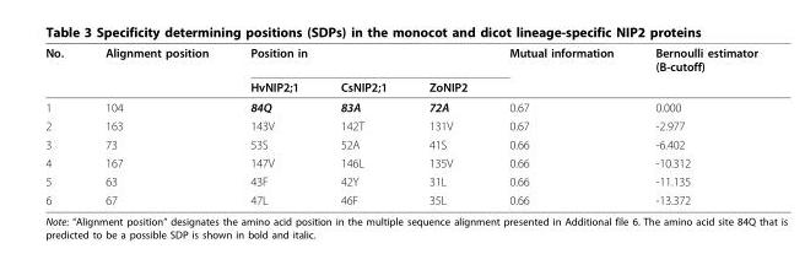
<table><thead><tr><td rowspan="2">No.</td><td rowspan="2">Alignment position</td><td colspan="3">Position in</td><td rowspan="2">Mutual information</td><td rowspan="2">Bernoulli estimator (B-cutoff)</td></tr><tr><td>HvNIP2;1</td><td>CsNIP2;1</td><td>ZoNIP2</td></tr></thead><tbody><tr><td>1</td><td>104</td><td>84Q</td><td>83A</td><td>72A</td><td>0.67</td><td>0.000</td></tr><tr><td>2</td><td>163</td><td>143V</td><td>142T</td><td>131V</td><td>0.67</td><td>-2.977</td></tr><tr><td>3</td><td>73</td><td>53S</td><td>52A</td><td>41S</td><td>0.66</td><td>-6.402</td></tr><tr><td>4</td><td>167</td><td>147V</td><td>146L</td><td>135V</td><td>0.66</td><td>-10.312</td></tr><tr><td>5</td><td>63</td><td>43F</td><td>42Y</td><td>31L</td><td>0.66</td><td>-11.135</td></tr><tr><td>6</td><td>67</td><td>47L</td><td>46F</td><td>35L</td><td>0.66</td><td>-13.372</td></tr></tbody></table>